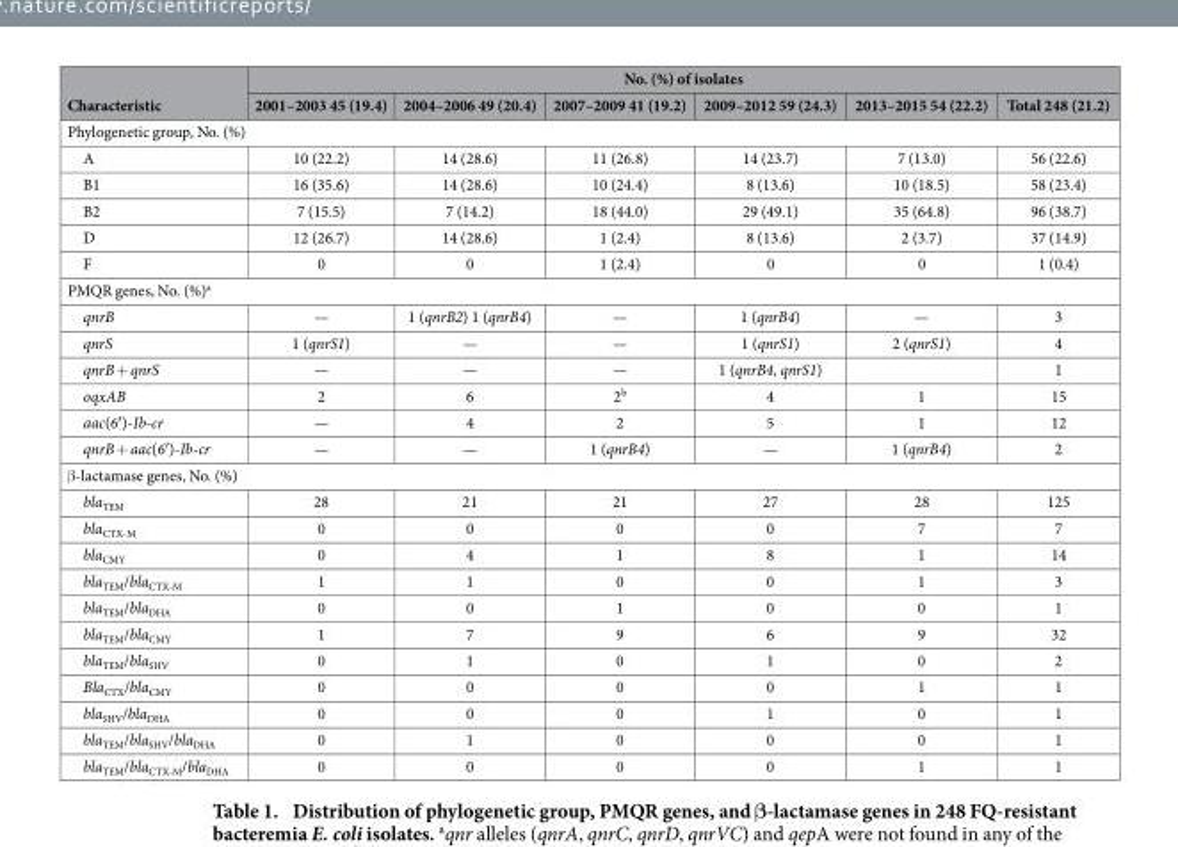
<table><thead><tr><td rowspan="2">Characteristic</td><td colspan="6">No. (%) of isolates</td></tr><tr><td>2001–2003 45 (19.4)</td><td>2004–2006 49 (20.4)</td><td>2007–2009 41 (19.2)</td><td>2009–2012 59 (24.3)</td><td>2013–2015 54 (22.2)</td><td>Total 248 (21.2)</td></tr></thead><tbody><tr><td colspan="7">Phylogenetic group, No. (%)</td></tr><tr><td>A</td><td>10 (22.2)</td><td>14 (28.6)</td><td>11 (26.8)</td><td>14 (23.7)</td><td>7 (13.0)</td><td>56 (22.6)</td></tr><tr><td>B1</td><td>16 (35.6)</td><td>14 (28.6)</td><td>10 (24.4)</td><td>8 (13.6)</td><td>10 (18.5)</td><td>58 (23.4)</td></tr><tr><td>B2</td><td>7 (15.5)</td><td>7 (14.2)</td><td>18 (44.0)</td><td>29 (49.1)</td><td>35 (64.8)</td><td>96 (38.7)</td></tr><tr><td>D</td><td>12 (26.7)</td><td>14 (28.6)</td><td>1 (2.4)</td><td>8 (13.6)</td><td>2 (3.7)</td><td>37 (14.9)</td></tr><tr><td>F</td><td>0</td><td>0</td><td>1 (2.4)</td><td>0</td><td>0</td><td>1 (0.4)</td></tr><tr><td colspan="7">PMQR genes, No. (%)<sup>a</sup></td></tr><tr><td>qnrB</td><td>—</td><td>1 (qnrB2) 1 (qnrB4)</td><td>—</td><td>1 (qnrB4)</td><td>—</td><td>3</td></tr><tr><td>qnrS</td><td>1 (qnrS1)</td><td>—</td><td>—</td><td>1 (qnrS1)</td><td>2 (qnrS1)</td><td>4</td></tr><tr><td>qnrB + qnrS</td><td>—</td><td>—</td><td>—</td><td>1 (qnrB4, qnrS1)</td><td></td><td>1</td></tr><tr><td>oqxAB</td><td>2</td><td>6</td><td>2<sup>b</sup></td><td>4</td><td>1</td><td>15</td></tr><tr><td>aac(6′ )-Ib-cr</td><td>—</td><td>4</td><td>2</td><td>5</td><td>1</td><td>12</td></tr><tr><td>qnrB + aac(6′ )-Ib-cr</td><td>—</td><td>—</td><td>1 (qnrB4)</td><td>—</td><td>1 (qnrB4)</td><td>2</td></tr><tr><td colspan="7">β -lactamase genes, No. (%)</td></tr><tr><td>bla<sub>TEM</sub></td><td>28</td><td>21</td><td>21</td><td>27</td><td>28</td><td>125</td></tr><tr><td>bla<sub>CTX-M</sub></td><td>0</td><td>0</td><td>0</td><td>0</td><td>7</td><td>7</td></tr><tr><td>bla<sub>CMY</sub></td><td>0</td><td>4</td><td>1</td><td>8</td><td>1</td><td>14</td></tr><tr><td>bla<sub>TEM</sub>/bla<sub>CTX-M</sub></td><td>1</td><td>1</td><td>0</td><td>0</td><td>1</td><td>3</td></tr><tr><td>bla<sub>TEM</sub>/bla<sub>DHA</sub></td><td>0</td><td>0</td><td>1</td><td>0</td><td>0</td><td>1</td></tr><tr><td>bla<sub>TEM</sub>/bla<sub>CMY</sub></td><td>1</td><td>7</td><td>9</td><td>6</td><td>9</td><td>32</td></tr><tr><td>bla<sub>TEM</sub>/bla<sub>SHV</sub></td><td>0</td><td>1</td><td>0</td><td>1</td><td>0</td><td>2</td></tr><tr><td>Bla<sub>CTX</sub>/bla<sub>CMY</sub></td><td>0</td><td>0</td><td>0</td><td>0</td><td>1</td><td>1</td></tr><tr><td>bla<sub>SHV</sub>/bla<sub>DHA</sub></td><td>0</td><td>0</td><td>0</td><td>1</td><td>0</td><td>1</td></tr><tr><td>bla<sub>TEM</sub>/bla<sub>SHV</sub>/bla<sub>DHA</sub></td><td>0</td><td>1</td><td>0</td><td>0</td><td>0</td><td>1</td></tr><tr><td>bla<sub>TEM</sub>/bla<sub>CTX-M</sub>/bla<sub>DHA</sub></td><td>0</td><td>0</td><td>0</td><td>0</td><td>1</td><td>1</td></tr></tbody></table>